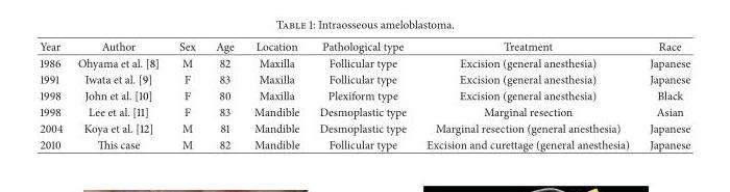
<table><thead><tr><td>Year</td><td>Author</td><td>Sex</td><td>Age</td><td>Location</td><td>Pathological type</td><td>Treatment</td><td>Race</td></tr></thead><tbody><tr><td>1986</td><td>Ohyama et al. [8]</td><td>M</td><td>82</td><td>Maxilla</td><td>Follicular type</td><td>Excision (general anesthesia)</td><td>Japanese</td></tr><tr><td>1991</td><td>Iwata et al. [9]</td><td>F</td><td>83</td><td>Maxilla</td><td>Follicular type</td><td>Excision (general anesthesia)</td><td>Japanese</td></tr><tr><td>1998</td><td>John et al. [10]</td><td>F</td><td>80</td><td>Maxilla</td><td>Plexiform type</td><td>Excision (general anesthesia)</td><td>Black</td></tr><tr><td>1998</td><td>Lee et al. [11]</td><td>F</td><td>83</td><td>Mandible</td><td>Desmoplastic type</td><td>Marginal resection</td><td>Asian</td></tr><tr><td>2004</td><td>Koya et al. [12]</td><td>M</td><td>81</td><td>Mandible</td><td>Desmoplastic type</td><td>Marginal resection (general anesthesia)</td><td>Japanese</td></tr><tr><td>2010</td><td>This case</td><td>M</td><td>82</td><td>Mandible</td><td>Follicular type</td><td>Excision and curettage (general anesthesia)</td><td>Japanese</td></tr></tbody></table>